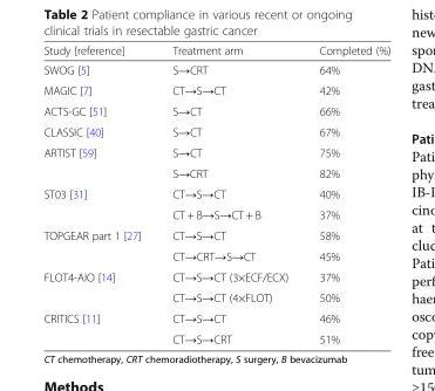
<table><thead><tr><td>Study [reference]</td><td>Treatment arm</td><td>Completed (%)</td></tr></thead><tbody><tr><td>SWOG [5]</td><td>S→CRT</td><td>64%</td></tr><tr><td>MAGIC [7]</td><td>CT→S→CT</td><td>42%</td></tr><tr><td>ACTS-GC [51]</td><td>S→CT</td><td>66%</td></tr><tr><td>CLASSIC [40]</td><td>S→CT</td><td>67%</td></tr><tr><td rowspan="2">ARTIST [59]</td><td>S→CT</td><td>75%</td></tr><tr><td>S→CRT</td><td>82%</td></tr><tr><td rowspan="2">ST03 [31]</td><td>CT→S→CT</td><td>40%</td></tr><tr><td>CT + B→S→CT + B</td><td>37%</td></tr><tr><td rowspan="2">TOPGEAR part 1 [27]</td><td>CT→S→CT</td><td>58%</td></tr><tr><td>CT→CRT→S→CT</td><td>45%</td></tr><tr><td rowspan="2">FLOT4-AIO [14]</td><td>CT→S→CT (3×ECF/ECX)</td><td>37%</td></tr><tr><td>CT→S→CT (4×FLOT)</td><td>50%</td></tr><tr><td rowspan="2">CRITICS [11]</td><td>CT→S→CT</td><td>46%</td></tr><tr><td>CT→S→CRT</td><td>51%</td></tr></tbody></table>